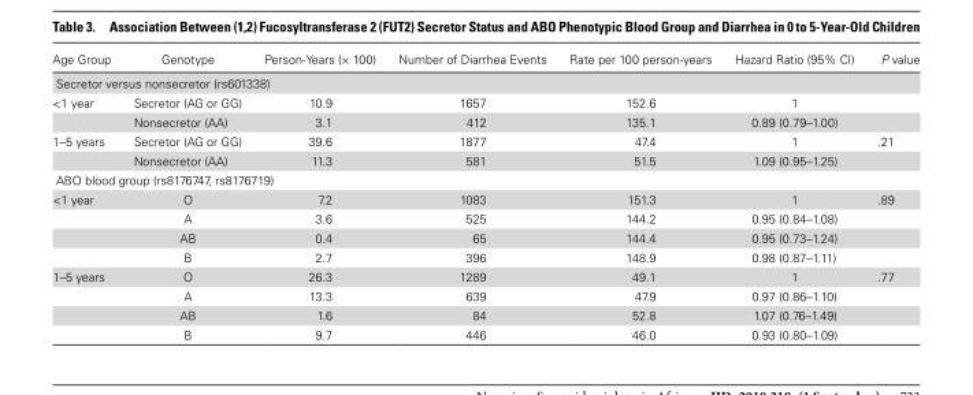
<table><thead><tr><td>Age Group</td><td>Genotype</td><td>Person-Years (× 100)</td><td>Number of Diarrhea Events</td><td>Rate per 100 person-years</td><td>Hazard Ratio (95% CI)</td><td>P value</td></tr></thead><tbody><tr><td colspan="7">Secretor versus nonsecretor (rs601338)</td></tr><tr><td rowspan="2">&lt;1 year</td><td>Secretor (AG or GG)</td><td>10.9</td><td>1657</td><td>152.6</td><td>1</td><td></td></tr><tr><td>Nonsecretor (AA)</td><td>3.1</td><td>412</td><td>135.1</td><td>0.89 (0.79–1.00)</td><td></td></tr><tr><td rowspan="2">1–5 years</td><td>Secretor (AG or GG)</td><td>39.6</td><td>1877</td><td>47.4</td><td>1</td><td>.21</td></tr><tr><td>Nonsecretor (AA)</td><td>11.3</td><td>581</td><td>51.5</td><td>1.09 (0.95–1.25)</td><td></td></tr><tr><td colspan="7">ABO blood group (rs8176747, rs8176719)</td></tr><tr><td rowspan="4">&lt;1 year</td><td>O</td><td>7.2</td><td>1083</td><td>151.3</td><td>1</td><td>.89</td></tr><tr><td>A</td><td>3.6</td><td>525</td><td>144.2</td><td>0.95 (0.84–1.08)</td><td></td></tr><tr><td>AB</td><td>0.4</td><td>65</td><td>144.4</td><td>0.95 (0.73–1.24)</td><td></td></tr><tr><td>B</td><td>2.7</td><td>396</td><td>148.9</td><td>0.98 (0.87–1.11)</td><td></td></tr><tr><td rowspan="4">1–5 years</td><td>O</td><td>26.3</td><td>1289</td><td>49.1</td><td>1</td><td>.77</td></tr><tr><td>A</td><td>13.3</td><td>639</td><td>47.9</td><td>0.97 (0.86–1.10)</td><td></td></tr><tr><td>AB</td><td>1.6</td><td>84</td><td>52.8</td><td>1.07 (0.76–1.49)</td><td></td></tr><tr><td>B</td><td>9.7</td><td>446</td><td>46.0</td><td>0.93 (0.80–1.09)</td><td></td></tr></tbody></table>